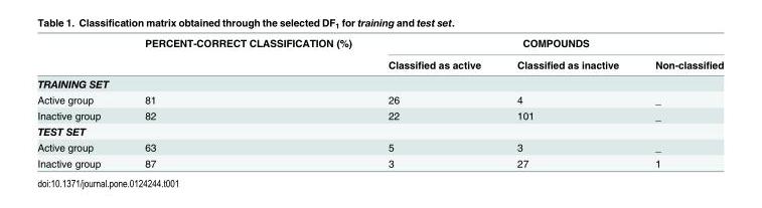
<table><thead><tr><td rowspan="2"></td><td rowspan="2">PERCENT-CORRECT CLASSIFICATION (%)</td><td colspan="3">COMPOUNDS</td></tr><tr><td>Classified as active</td><td>Classified as inactive</td><td>Non-classified</td></tr></thead><tbody><tr><td colspan="5">TRAINING SET</td></tr><tr><td>Active group</td><td>81</td><td>26</td><td>4</td><td>_</td></tr><tr><td>Inactive group</td><td>82</td><td>22</td><td>101</td><td>_</td></tr><tr><td colspan="5">TEST SET</td></tr><tr><td>Active group</td><td>63</td><td>5</td><td>3</td><td>_</td></tr><tr><td>Inactive group</td><td>87</td><td>3</td><td>27</td><td>1</td></tr></tbody></table>